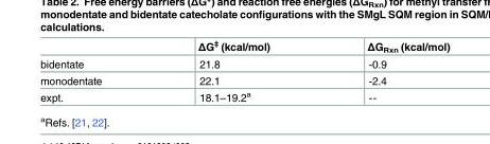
<table><thead><tr><td></td><td>ΔG<sup>‡</sup> (kcal/mol)</td><td>ΔG<sub>Rxn</sub> (kcal/mol)</td></tr></thead><tbody><tr><td>bidentate</td><td>21.8</td><td>-0.9</td></tr><tr><td>monodentate</td><td>22.1</td><td>-2.4</td></tr><tr><td>expt.</td><td>18.1–19.2<sup>a</sup></td><td>--</td></tr></tbody></table>